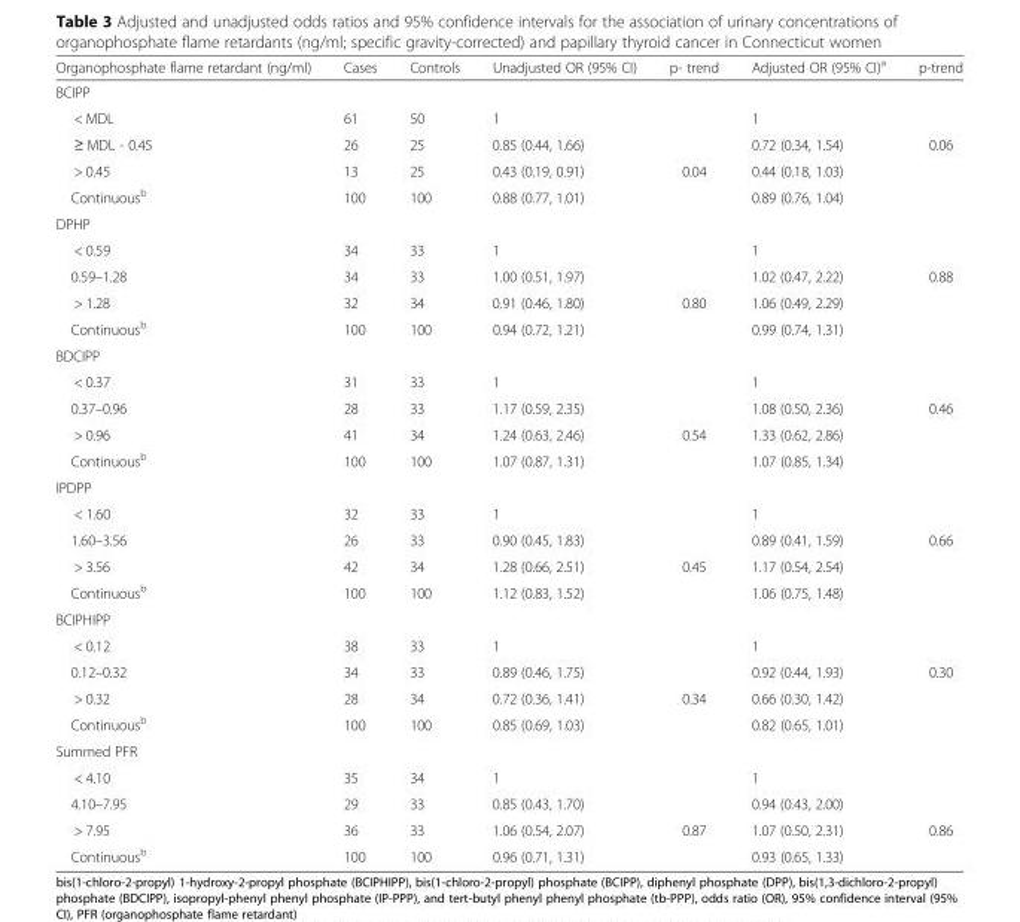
<table><thead><tr><td>Organophosphate flame retardant (ng/ml)</td><td>Cases</td><td>Controls</td><td>Unadjusted OR (95% CI)</td><td>p- trend</td><td>Adjusted OR (95% CI)<sup>a</sup></td><td>p-trend</td></tr></thead><tbody><tr><td colspan="7">BCIPP</td></tr><tr><td>&lt; MDL</td><td>61</td><td>50</td><td>1</td><td></td><td>1</td><td></td></tr><tr><td>≥ MDL - 0.45</td><td>26</td><td>25</td><td>0.85 (0.44, 1.66)</td><td></td><td>0.72 (0.34, 1.54)</td><td rowspan="2">0.06</td></tr><tr><td>&gt; 0.45</td><td>13</td><td>25</td><td>0.43 (0.19, 0.91)</td><td>0.04</td><td>0.44 (0.18, 1.03)</td></tr><tr><td>Continuous<sup>b</sup></td><td>100</td><td>100</td><td>0.88 (0.77, 1.01)</td><td></td><td>0.89 (0.76, 1.04)</td><td></td></tr><tr><td colspan="7">DPHP</td></tr><tr><td>&lt; 0.59</td><td>34</td><td>33</td><td>1</td><td></td><td>1</td><td></td></tr><tr><td>0.59–1.28</td><td>34</td><td>33</td><td>1.00 (0.51, 1.97)</td><td></td><td>1.02 (0.47, 2.22)</td><td rowspan="2">0.88</td></tr><tr><td>&gt; 1.28</td><td>32</td><td>34</td><td>0.91 (0.46, 1.80)</td><td>0.80</td><td>1.06 (0.49, 2.29)</td></tr><tr><td>Continuous<sup>b</sup></td><td>100</td><td>100</td><td>0.94 (0.72, 1.21)</td><td></td><td>0.99 (0.74, 1.31)</td><td></td></tr><tr><td colspan="7">BDCIPP</td></tr><tr><td>&lt; 0.37</td><td>31</td><td>33</td><td>1</td><td></td><td>1</td><td></td></tr><tr><td>0.37–0.96</td><td>28</td><td>33</td><td>1.17 (0.59, 2.35)</td><td></td><td>1.08 (0.50, 2.36)</td><td rowspan="2">0.46</td></tr><tr><td>&gt; 0.96</td><td>41</td><td>34</td><td>1.24 (0.63, 2.46)</td><td>0.54</td><td>1.33 (0.62, 2.86)</td></tr><tr><td>Continuous<sup>b</sup></td><td>100</td><td>100</td><td>1.07 (0.87, 1.31)</td><td></td><td>1.07 (0.85, 1.34)</td><td></td></tr><tr><td colspan="7">IPDPP</td></tr><tr><td>&lt; 1.60</td><td>32</td><td>33</td><td>1</td><td></td><td>1</td><td></td></tr><tr><td>1.60–3.56</td><td>26</td><td>33</td><td>0.90 (0.45, 1.83)</td><td></td><td>0.89 (0.41, 1.59)</td><td rowspan="2">0.66</td></tr><tr><td>&gt; 3.56</td><td>42</td><td>34</td><td>1.28 (0.66, 2.51)</td><td>0.45</td><td>1.17 (0.54, 2.54)</td></tr><tr><td>Continuous<sup>b</sup></td><td>100</td><td>100</td><td>1.12 (0.83, 1.52)</td><td></td><td>1.06 (0.75, 1.48)</td><td></td></tr><tr><td colspan="7">BCIPHIPP</td></tr><tr><td>&lt; 0.12</td><td>38</td><td>33</td><td>1</td><td></td><td>1</td><td></td></tr><tr><td>0.12–0.32</td><td>34</td><td>33</td><td>0.89 (0.46, 1.75)</td><td></td><td>0.92 (0.44, 1.93)</td><td rowspan="2">0.30</td></tr><tr><td>&gt; 0.32</td><td>28</td><td>34</td><td>0.72 (0.36, 1.41)</td><td>0.34</td><td>0.66 (0.30, 1.42)</td></tr><tr><td>Continuous<sup>b</sup></td><td>100</td><td>100</td><td>0.85 (0.69, 1.03)</td><td></td><td>0.82 (0.65, 1.01)</td><td></td></tr><tr><td colspan="7">Summed PFR</td></tr><tr><td>&lt; 4.10</td><td>35</td><td>34</td><td>1</td><td></td><td>1</td><td></td></tr><tr><td>4.10–7.95</td><td>29</td><td>33</td><td>0.85 (0.43, 1.70)</td><td></td><td>0.94 (0.43, 2.00)</td><td></td></tr><tr><td>&gt; 7.95</td><td>36</td><td>33</td><td>1.06 (0.54, 2.07)</td><td>0.87</td><td>1.07 (0.50, 2.31)</td><td>0.86</td></tr><tr><td>Continuous<sup>b</sup></td><td>100</td><td>100</td><td>0.96 (0.71, 1.31)</td><td></td><td>0.93 (0.65, 1.33)</td><td></td></tr></tbody></table>